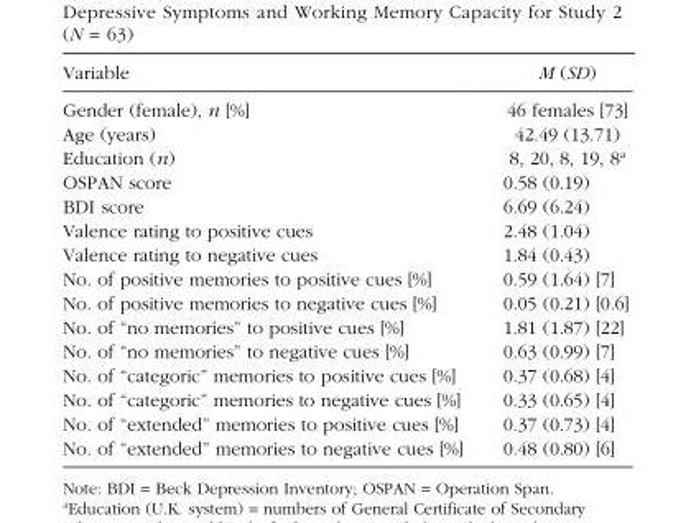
<table><thead><tr><td>Variable</td><td>M (SD)</td></tr></thead><tbody><tr><td>Gender (female), n [%]</td><td>46 females [73]</td></tr><tr><td>Age (years)</td><td>42.49 (13.71)</td></tr><tr><td>Education (n)</td><td>8, 20, 8, 19, 8<sup>a</sup></td></tr><tr><td>OSPAN score</td><td>0.58 (0.19)</td></tr><tr><td>BDI score</td><td>6.69 (6.24)</td></tr><tr><td>Valence rating to positive cues</td><td>2.48 (1.04)</td></tr><tr><td>Valence rating to negative cues</td><td>1.84 (0.43)</td></tr><tr><td>No. of positive memories to positive cues [%]</td><td>0.59 (1.64) [7]</td></tr><tr><td>No. of positive memories to negative cues [%]</td><td>0.05 (0.21) [0.6]</td></tr><tr><td>No. of “no memories” to positive cues [%]</td><td>1.81 (1.87) [22]</td></tr><tr><td>No. of “no memories” to negative cues [%]</td><td>0.63 (0.99) [7]</td></tr><tr><td>No. of “categoric” memories to positive cues [%]</td><td>0.37 (0.68) [4]</td></tr><tr><td>No. of “categoric” memories to negative cues [%]</td><td>0.33 (0.65) [4]</td></tr><tr><td>No. of “extended” memories to positive cues [%]</td><td>0.37 (0.73) [4]</td></tr><tr><td>No. of “extended” memories to negative cues [%]</td><td>0.48 (0.80) [6]</td></tr></tbody></table>